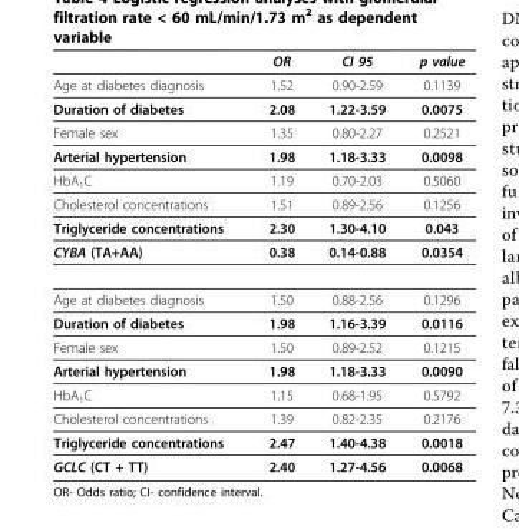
<table><thead><tr><td></td><td>OR</td><td>CI 95</td><td>p value</td></tr></thead><tbody><tr><td>Age at diabetes diagnosis</td><td>1.52</td><td>0.90-2.59</td><td>0.1139</td></tr><tr><td>Duration of diabetes</td><td>2.08</td><td>1.22-3.59</td><td>0.0075</td></tr><tr><td>Female sex</td><td>1.35</td><td>0.80-2.27</td><td>0.2521</td></tr><tr><td>Arterial hypertension</td><td>1.98</td><td>1.18-3.33</td><td>0.0098</td></tr><tr><td>HbA1C</td><td>1.19</td><td>0.70-2.03</td><td>0.5060</td></tr><tr><td>Cholesterol concentrations</td><td>1.51</td><td>0.89-2.56</td><td>0.1256</td></tr><tr><td>Triglyceride concentrations</td><td>2.30</td><td>1.30-4.10</td><td>0.043</td></tr><tr><td>CYBA (TA+AA)</td><td>0.38</td><td>0.14-0.88</td><td>0.0354</td></tr><tr><td>Age at diabetes diagnosis</td><td>1.50</td><td>0.88-2.56</td><td>0.1296</td></tr><tr><td>Duration of diabetes</td><td>1.98</td><td>1.16-3.39</td><td>0.0116</td></tr><tr><td>Female sex</td><td>1.50</td><td>0.89-2.52</td><td>0.1215</td></tr><tr><td>Arterial hypertension</td><td>1.98</td><td>1.18-3.33</td><td>0.0090</td></tr><tr><td>HbA1C</td><td>1.15</td><td>0.68-1.95</td><td>0.5792</td></tr><tr><td>Cholesterol concentrations</td><td>1.39</td><td>0.82-2.35</td><td>0.2176</td></tr><tr><td>Triglyceride concentrations</td><td>2.47</td><td>1.40-4.38</td><td>0.0018</td></tr><tr><td>GCLC (CT + TT)</td><td>2.40</td><td>1.27-4.56</td><td>0.0068</td></tr></tbody></table>